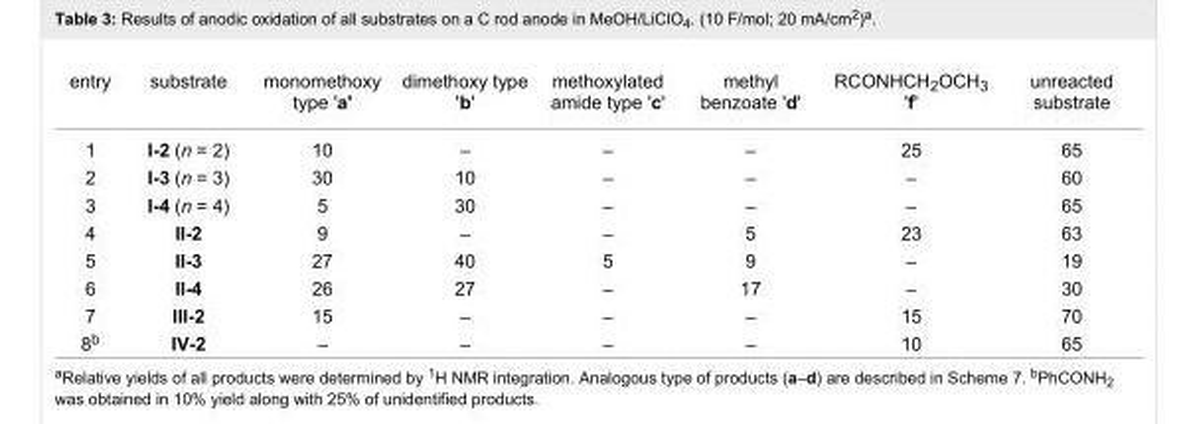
<table><tbody><tr><td>entry</td><td>substrate</td><td>monomethoxy type &#x27;a&#x27;</td><td>dimethoxy type &#x27;b&#x27;</td><td>methoxylated amide type &#x27;c&#x27;</td><td>methyl benzoate &#x27;d&#x27;</td><td>RCONHCH<sub>2</sub>OCH<sub>3</sub> &#x27;f&#x27;</td><td>unreacted substrate</td></tr><tr><td>1</td><td>I-2 (n = 2)</td><td>10</td><td>–</td><td>–</td><td>–</td><td>25</td><td>65</td></tr><tr><td>2</td><td>I-3 (n = 3)</td><td>30</td><td>10</td><td>–</td><td>–</td><td>–</td><td>60</td></tr><tr><td>3</td><td>I-4 (n = 4)</td><td>5</td><td>30</td><td>–</td><td>–</td><td>–</td><td>65</td></tr><tr><td>4</td><td>II-2</td><td>9</td><td>–</td><td>–</td><td>5</td><td>23</td><td>63</td></tr><tr><td>5</td><td>II-3</td><td>27</td><td>40</td><td>5</td><td>9</td><td>–</td><td>19</td></tr><tr><td>6</td><td>II-4</td><td>26</td><td>27</td><td>–</td><td>17</td><td>–</td><td>30</td></tr><tr><td>7</td><td>III-2</td><td>15</td><td>–</td><td>–</td><td>–</td><td>15</td><td>70</td></tr><tr><td>8<sup>b</sup></td><td>IV-2</td><td>–</td><td>–</td><td>–</td><td>–</td><td>10</td><td>65</td></tr></tbody></table>